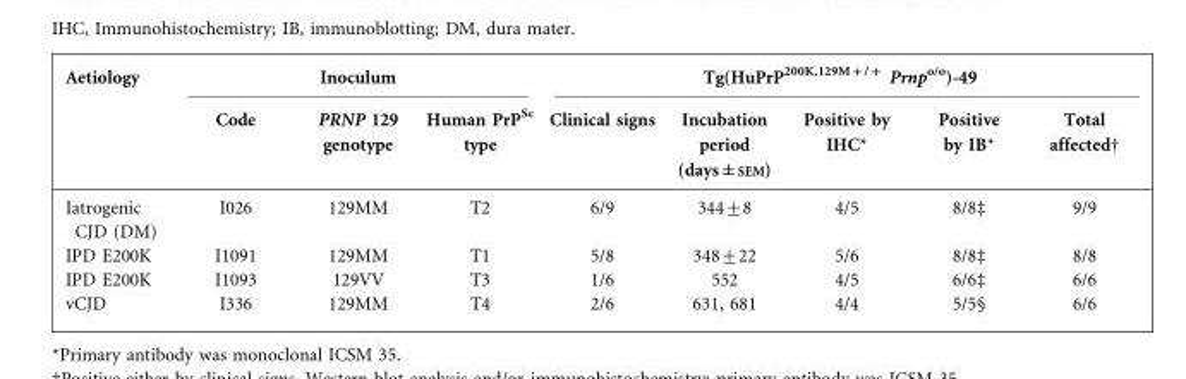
<table><thead><tr><td rowspan="2">Aetiology</td><td colspan="3">Inoculum</td><td colspan="5">Tg(HuPrP<sup>200K,129M+/+</sup> Prnp<sup>o/o</sup>)-49</td></tr><tr><td>Code</td><td>PRNP 129 genotype</td><td>Human PrP<sup>Sc</sup> type</td><td>Clinical signs</td><td>Incubation period (days±SEM)</td><td>Positive by IHC*</td><td>Positive by IB*</td><td>Total affected†</td></tr></thead><tbody><tr><td>Iatrogenic CJD (DM)</td><td>I026</td><td>129MM</td><td>T2</td><td>6/9</td><td>344±8</td><td>4/5</td><td>8/8‡</td><td>9/9</td></tr><tr><td>IPD E200K</td><td>I1091</td><td>129MM</td><td>T1</td><td>5/8</td><td>348±22</td><td>5/6</td><td>8/8‡</td><td>8/8</td></tr><tr><td>IPD E200K</td><td>I1093</td><td>129VV</td><td>T3</td><td>1/6</td><td>552</td><td>4/5</td><td>6/6‡</td><td>6/6</td></tr><tr><td>vCJD</td><td>I336</td><td>129MM</td><td>T4</td><td>2/6</td><td>631, 681</td><td>4/4</td><td>5/5§</td><td>6/6</td></tr></tbody></table>